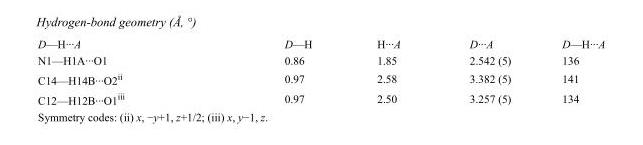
<table><tbody><tr><td>D—H···A</td><td>D—H</td><td>H···A</td><td>D···A</td><td>D—H···A</td></tr><tr><td>N1—H1A···O1</td><td>0.86</td><td>1.85</td><td>2.542 (5)</td><td>136</td></tr><tr><td>C14—H14B···O2<sup>ii</sup></td><td>0.97</td><td>2.58</td><td>3.382 (5)</td><td>141</td></tr><tr><td>C12—H12B···O1<sup>iii</sup></td><td>0.97</td><td>2.50</td><td>3.257 (5)</td><td>134</td></tr></tbody></table>